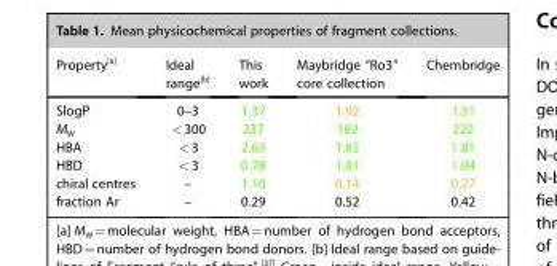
<table><thead><tr><td>Property<sup>[a]</sup></td><td>Ideal range<sup>[b]</sup></td><td>This work</td><td>Maybridge “Ro3” core collection</td><td>Chembridge</td></tr></thead><tbody><tr><td>SlogP</td><td>0–3</td><td>1.37</td><td>1.92</td><td>1.31</td></tr><tr><td>M<sub>W</sub></td><td>&lt;300</td><td>237</td><td>182</td><td>222</td></tr><tr><td>HBA</td><td>&lt;3</td><td>2.63</td><td>1.83</td><td>1.81</td></tr><tr><td>HBD</td><td>&lt;3</td><td>0.78</td><td>1.01</td><td>1.04</td></tr><tr><td>chiral centres</td><td>–</td><td>1.10</td><td>0.14</td><td>0.27</td></tr><tr><td>fraction Ar</td><td>–</td><td>0.29</td><td>0.52</td><td>0.42</td></tr></tbody></table>